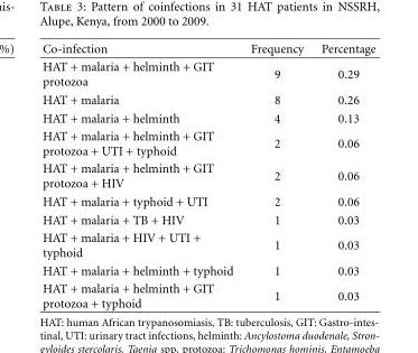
<table><thead><tr><td>Co-infection</td><td>Frequency</td><td>Percentage</td></tr></thead><tbody><tr><td>HAT + malaria + helminth + GIT protozoa</td><td>9</td><td>0.29</td></tr><tr><td>HAT + malaria</td><td>8</td><td>0.26</td></tr><tr><td>HAT + malaria + helminth</td><td>4</td><td>0.13</td></tr><tr><td>HAT + malaria + helminth + GIT protozoa + UTI + typhoid</td><td>2</td><td>0.06</td></tr><tr><td>HAT + malaria + helminth + GIT protozoa + HIV</td><td>2</td><td>0.06</td></tr><tr><td>HAT + malaria + typhoid + UTI</td><td>2</td><td>0.06</td></tr><tr><td>HAT + malaria + TB + HIV</td><td>1</td><td>0.03</td></tr><tr><td>HAT + malaria + HIV + UTI + typhoid</td><td>1</td><td>0.03</td></tr><tr><td>HAT + malaria + helminth + typhoid</td><td>1</td><td>0.03</td></tr><tr><td>HAT + malaria + helminth + GIT protozoa + typhoid</td><td>1</td><td>0.03</td></tr></tbody></table>